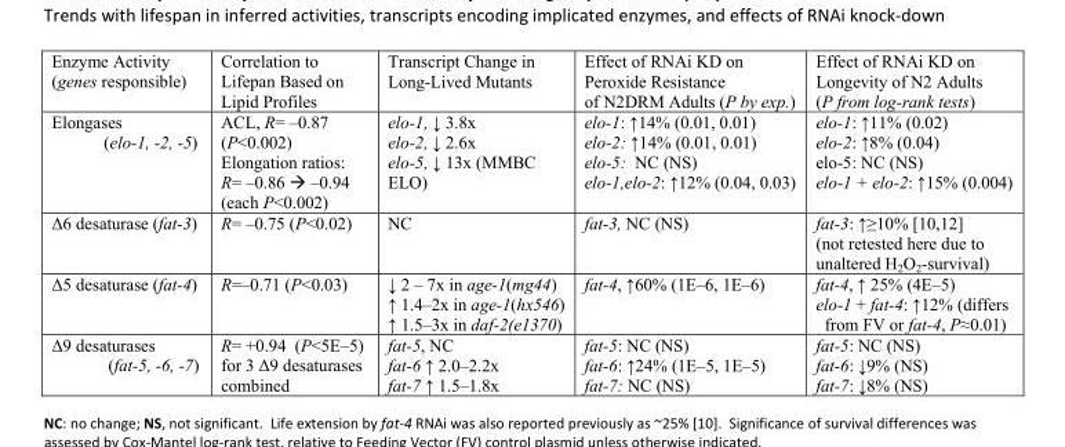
<table><thead><tr><td>Enzyme Activity (genes responsible)</td><td>Correlation to Lifepan Based on Lipid Profiles</td><td>Transcript Change in Long-Lived Mutants</td><td>Effect of RNAi KD on Peroxide Resistance of N2DRM Adults (P by exp.)</td><td>Effect of RNAi KD on Longevity of N2 Adults (P from log-rank tests)</td></tr></thead><tbody><tr><td>Elongases (elo-1, -2, -5)</td><td>ACL, R= –0.87 (P&lt;0.002) Elongation ratios: R= –0.86 à –0.94 (each P&lt;0.002)</td><td>elo-1, ↓ 3.8x elo-2, ↓ 2.6x elo-5, ↓ 13x (MMBC ELO)</td><td>elo-1: ↑14% (0.01, 0.01) elo-2: ↑14% (0.01, 0.01) elo-5: NC (NS) elo-1,elo-2: ↑12% (0.04, 0.03)</td><td>elo-1: ↑11% (0.02) elo-2: ↑8% (0.04) elo-5: NC (NS) elo-1 + elo-2: ↑15% (0.004)</td></tr><tr><td>Δ6 desaturase (fat-3)</td><td>R= –0.75 (P&lt;0.02)</td><td>NC</td><td>fat-3, NC (NS)</td><td>fat-3: ↑≥10% [10,12] (not retested here due to unaltered H<sub>2</sub>O<sub>2</sub>-survival)</td></tr><tr><td>Δ5 desaturase (fat-4)</td><td>R=–0.71 (P&lt;0.03)</td><td>↓ 2 – 7x in age-1(mg44) ↑ 1.4–2x in age-1(hx546) ↑ 1.5–3x in daf-2(e1370)</td><td>fat-4, ↑60% (1E–6, 1E–6)</td><td>fat-4, ↑ 25% (4E–5) elo-1 + fat-4: ↑12% (differs from FV or fat-4, P≈0.01)</td></tr><tr><td>Δ9 desaturases (fat-5, -6, -7)</td><td>R= +0.94 (P&lt;5E–5) for 3 Δ9 desaturases combined</td><td>fat-5, NC fat-6 ↑ 2.0–2.2x fat-7 ↑ 1.5–1.8x</td><td>fat-5: NC (NS) fat-6: ↑24% (1E–5, 1E–5) fat-7: NC (NS)</td><td>fat-5: NC (NS) fat-6: ↓9% (NS) fat-7: ↓8% (NS)</td></tr></tbody></table>